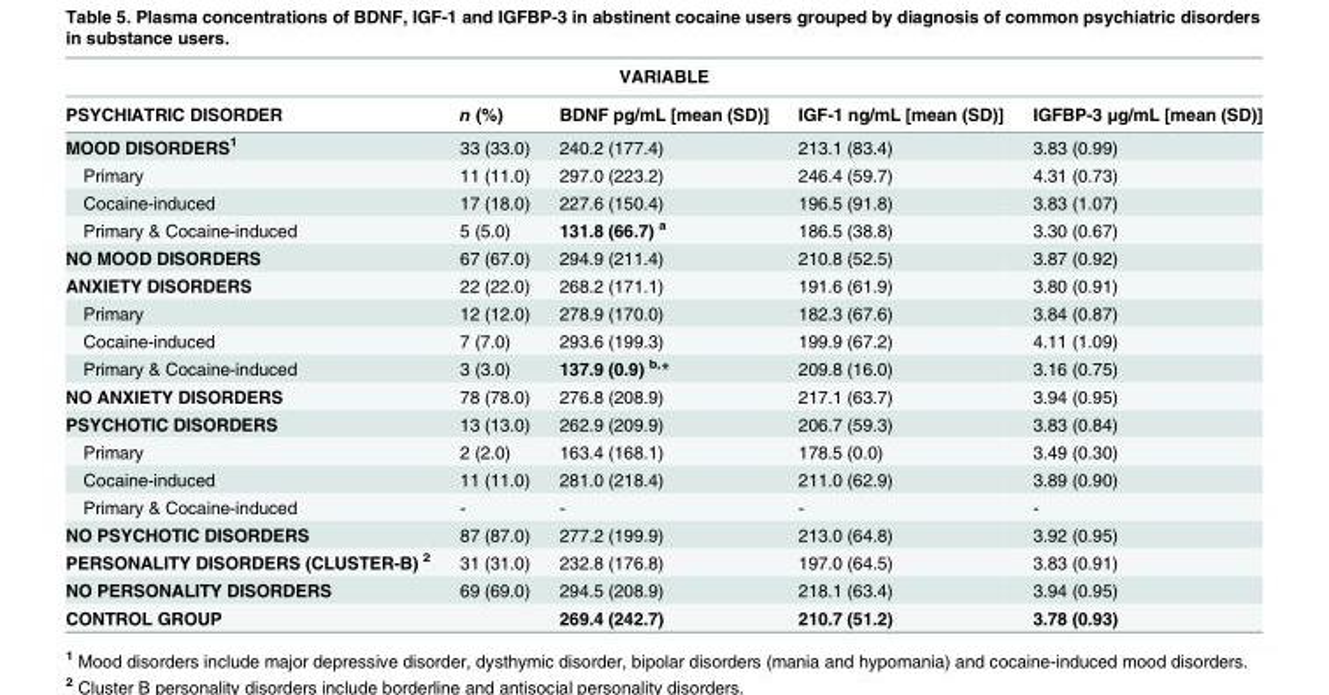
<table><thead><tr><td colspan="5">VARIABLE</td></tr><tr><td>PSYCHIATRIC DISORDER</td><td>n (%)</td><td>BDNF pg/mL [mean (SD)]</td><td>IGF-1 ng/mL [mean (SD)]</td><td>IGFBP-3 μg/mL [mean (SD)]</td></tr></thead><tbody><tr><td>MOOD DISORDERS<sup>1</sup></td><td>33 (33.0)</td><td>240.2 (177.4)</td><td>213.1 (83.4)</td><td>3.83 (0.99)</td></tr><tr><td>Primary</td><td>11 (11.0)</td><td>297.0 (223.2)</td><td>246.4 (59.7)</td><td>4.31 (0.73)</td></tr><tr><td>Cocaine-induced</td><td>17 (18.0)</td><td>227.6 (150.4)</td><td>196.5 (91.8)</td><td>3.83 (1.07)</td></tr><tr><td>Primary &amp; Cocaine-induced</td><td>5 (5.0)</td><td>131.8 (66.7) <sup>a</sup></td><td>186.5 (38.8)</td><td>3.30 (0.67)</td></tr><tr><td>NO MOOD DISORDERS</td><td>67 (67.0)</td><td>294.9 (211.4)</td><td>210.8 (52.5)</td><td>3.87 (0.92)</td></tr><tr><td>ANXIETY DISORDERS</td><td>22 (22.0)</td><td>268.2 (171.1)</td><td>191.6 (61.9)</td><td>3.80 (0.91)</td></tr><tr><td>Primary</td><td>12 (12.0)</td><td>278.9 (170.0)</td><td>182.3 (67.6)</td><td>3.84 (0.87)</td></tr><tr><td>Cocaine-induced</td><td>7 (7.0)</td><td>293.6 (199.3)</td><td>199.9 (67.2)</td><td>4.11 (1.09)</td></tr><tr><td>Primary &amp; Cocaine-induced</td><td>3 (3.0)</td><td>137.9 (0.9) <sup>b,</sup>*</td><td>209.8 (16.0)</td><td>3.16 (0.75)</td></tr><tr><td>NO ANXIETY DISORDERS</td><td>78 (78.0)</td><td>276.8 (208.9)</td><td>217.1 (63.7)</td><td>3.94 (0.95)</td></tr><tr><td>PSYCHOTIC DISORDERS</td><td>13 (13.0)</td><td>262.9 (209.9)</td><td>206.7 (59.3)</td><td>3.83 (0.84)</td></tr><tr><td>Primary</td><td>2 (2.0)</td><td>163.4 (168.1)</td><td>178.5 (0.0)</td><td>3.49 (0.30)</td></tr><tr><td>Cocaine-induced</td><td>11 (11.0)</td><td>281.0 (218.4)</td><td>211.0 (62.9)</td><td>3.89 (0.90)</td></tr><tr><td>Primary &amp; Cocaine-induced</td><td>-</td><td>-</td><td>-</td><td>-</td></tr><tr><td>NO PSYCHOTIC DISORDERS</td><td>87 (87.0)</td><td>277.2 (199.9)</td><td>213.0 (64.8)</td><td>3.92 (0.95)</td></tr><tr><td>PERSONALITY DISORDERS (CLUSTER-B) <sup>2</sup></td><td>31 (31.0)</td><td>232.8 (176.8)</td><td>197.0 (64.5)</td><td>3.83 (0.91)</td></tr><tr><td>NO PERSONALITY DISORDERS</td><td>69 (69.0)</td><td>294.5 (208.9)</td><td>218.1 (63.4)</td><td>3.94 (0.95)</td></tr><tr><td>CONTROL GROUP</td><td></td><td>269.4 (242.7)</td><td>210.7 (51.2)</td><td>3.78 (0.93)</td></tr></tbody></table>